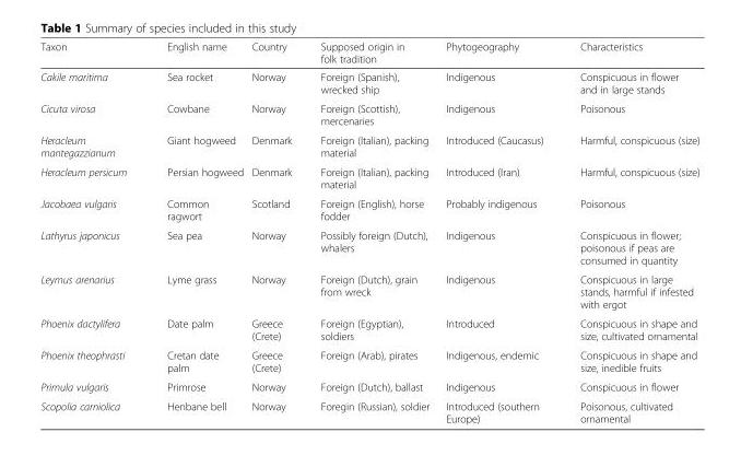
<table><thead><tr><td>Taxon</td><td>English name</td><td>Country</td><td>Supposed origin in folk tradition</td><td>Phytogeography</td><td>Characteristics</td></tr></thead><tbody><tr><td>Cakile maritima</td><td>Sea rocket</td><td>Norway</td><td>Foreign (Spanish), wrecked ship</td><td>Indigenous</td><td>Conspicuous in flower and in large stands</td></tr><tr><td>Cicuta virosa</td><td>Cowbane</td><td>Norway</td><td>Foreign (Scottish), mercenaries</td><td>Indigenous</td><td>Poisonous</td></tr><tr><td>Heracleum mantegazzianum</td><td>Giant hogweed</td><td>Denmark</td><td>Foreign (Italian), packing material</td><td>Introduced (Caucasus)</td><td>Harmful, conspicuous (size)</td></tr><tr><td>Heracleum persicum</td><td>Persian hogweed</td><td>Denmark</td><td>Foreign (Italian), packing material</td><td>Introduced (Iran)</td><td>Harmful, conspicuous (size)</td></tr><tr><td>Jacobaea vulgaris</td><td>Common ragwort</td><td>Scotland</td><td>Foreign (English), horse fodder</td><td>Probably indigenous</td><td>Poisonous</td></tr><tr><td>Lathyrus japonicus</td><td>Sea pea</td><td>Norway</td><td>Possibly foreign (Dutch), whalers</td><td>Indigenous</td><td>Conspicuous in flower; poisonous if peas are consumed in quantity</td></tr><tr><td>Leymus arenarius</td><td>Lyme grass</td><td>Norway</td><td>Foreign (Dutch), grain from wreck</td><td>Indigenous</td><td>Conspicuous in large stands, harmful if infested with ergot</td></tr><tr><td>Phoenix dactylifera</td><td>Date palm</td><td>Greece (Crete)</td><td>Foreign (Egyptian), soldiers</td><td>Introduced</td><td>Conspicuous in shape and size, cultivated ornamental</td></tr><tr><td>Phoenix theophrasti</td><td>Cretan date palm</td><td>Greece (Crete)</td><td>Foreign (Arab), pirates</td><td>Indigenous, endemic</td><td>Conspicuous in shape and size, inedible fruits</td></tr><tr><td>Primula vulgaris</td><td>Primrose</td><td>Norway</td><td>Foreign (Dutch), ballast</td><td>Indigenous</td><td>Conspicuous in flower</td></tr><tr><td>Scopolia carniolica</td><td>Henbane bell</td><td>Norway</td><td>Foregin (Russian), soldier</td><td>Introduced (southern Europe)</td><td>Poisonous, cultivated ornamental</td></tr></tbody></table>